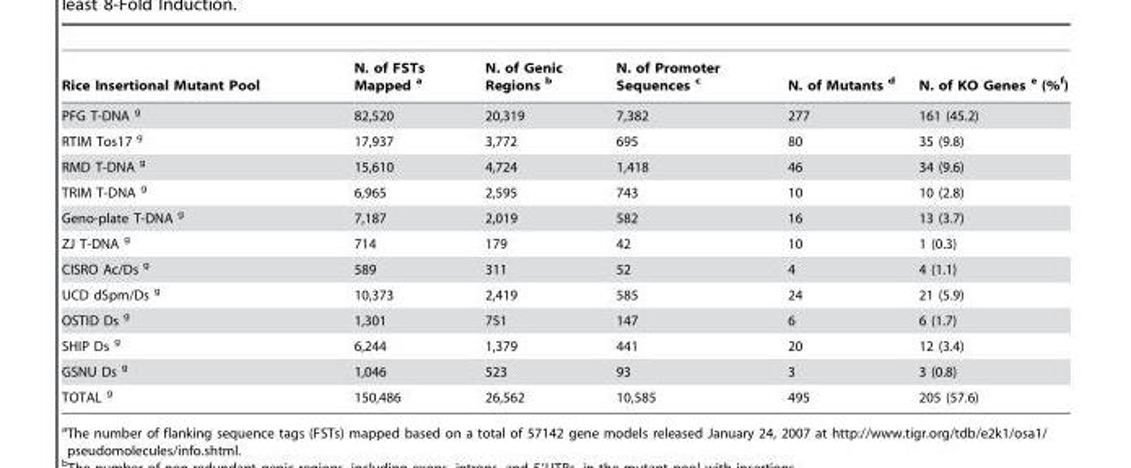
<table><thead><tr><td>Rice Insertional Mutant Pool</td><td>N. of FSTs Mapped a</td><td>N. of Genic Regions b</td><td>N. of Promoter Sequences c</td><td>N. of Mutants d</td><td>N. of KO Genes e (%<sup>f</sup>)</td></tr></thead><tbody><tr><td>PFG T-DNA g</td><td>82,520</td><td>20,319</td><td>7,382</td><td>277</td><td>161 (45.2)</td></tr><tr><td>RTIM Tos17 g</td><td>17,937</td><td>3,772</td><td>695</td><td>80</td><td>35 (9.8)</td></tr><tr><td>RMD T-DNA g</td><td>15,610</td><td>4,724</td><td>1,418</td><td>46</td><td>34 (9.6)</td></tr><tr><td>TRIM T-DNA g</td><td>6,965</td><td>2,595</td><td>743</td><td>10</td><td>10 (2.8)</td></tr><tr><td>Geno-plate T-DNA g</td><td>7,187</td><td>2,019</td><td>582</td><td>16</td><td>13 (3.7)</td></tr><tr><td>ZJ T-DNA g</td><td>714</td><td>179</td><td>42</td><td>10</td><td>1 (0.3)</td></tr><tr><td>CISRO Ac/Ds g</td><td>589</td><td>311</td><td>52</td><td>4</td><td>4 (1.1)</td></tr><tr><td>UCD dSpm/Ds g</td><td>10,373</td><td>2,419</td><td>585</td><td>24</td><td>21 (5.9)</td></tr><tr><td>OSTID Ds g</td><td>1,301</td><td>751</td><td>147</td><td>6</td><td>6 (1.7)</td></tr><tr><td>SHIP Ds g</td><td>6,244</td><td>1,379</td><td>441</td><td>20</td><td>12 (3.4)</td></tr><tr><td>GSNU Ds g</td><td>1,046</td><td>523</td><td>93</td><td>3</td><td>3 (0.8)</td></tr><tr><td>TOTAL g</td><td>150,486</td><td>26,562</td><td>10,585</td><td>495</td><td>205 (57.6)</td></tr></tbody></table>